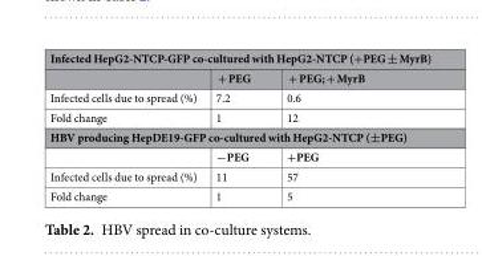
<table><thead><tr><td colspan="3">Infected HepG2-NTCP-GFP co-cultured with HepG2-NTCP (+PEG ± MyrB)</td></tr><tr><td></td><td>+ PEG</td><td>+ PEG; + MyrB</td></tr></thead><tbody><tr><td>Infected cells due to spread (%)</td><td>7.2</td><td>0.6</td></tr><tr><td>Fold change</td><td>1</td><td>12</td></tr><tr><td colspan="3">HBV producing HepDE19-GFP co-cultured with HepG2-NTCP (±PEG)</td></tr><tr><td></td><td>−PEG</td><td>+PEG</td></tr><tr><td>Infected cells due to spread (%)</td><td>11</td><td>57</td></tr><tr><td>Fold change</td><td>1</td><td>5</td></tr></tbody></table>